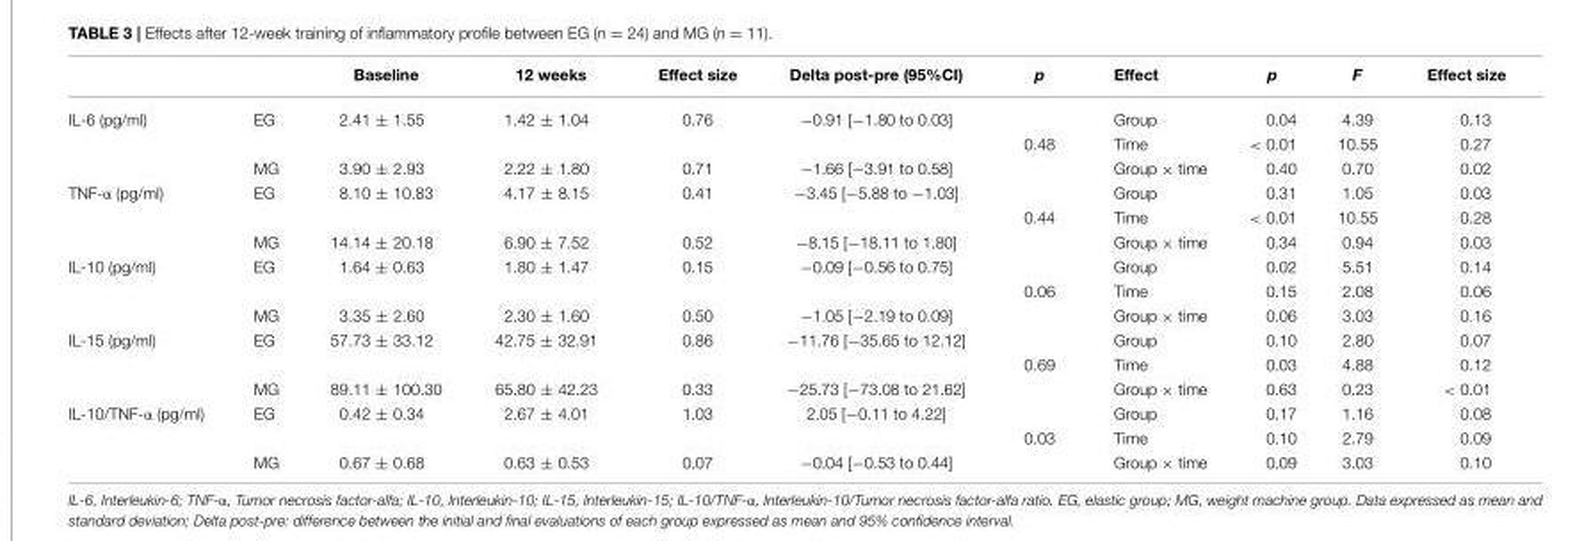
<table><thead><tr><td></td><td></td><td>Baseline</td><td>12 weeks</td><td>Effect size</td><td>Delta post-pre (95%CI)</td><td>p</td><td>Effect</td><td>p</td><td>F</td><td>Effect size</td></tr></thead><tbody><tr><td rowspan="3">IL-6 (pg/ml)</td><td>EG</td><td>2.41 ± 1.55</td><td>1.42 ± 1.04</td><td>0.76</td><td>−0.91 [−1.80 to 0.03]</td><td></td><td>Group</td><td>0.04</td><td>4.39</td><td>0.13</td></tr><tr><td></td><td></td><td></td><td></td><td></td><td>0.48</td><td>Time</td><td>&lt; 0.01</td><td>10.55</td><td>0.27</td></tr><tr><td>MG</td><td>3.90 ± 2.93</td><td>2.22 ± 1.80</td><td>0.71</td><td>−1.66 [−3.91 to 0.58]</td><td></td><td>Group × time</td><td>0.40</td><td>0.70</td><td>0.02</td></tr><tr><td rowspan="3">TNF-α (pg/ml)</td><td>EG</td><td>8.10 ± 10.83</td><td>4.17 ± 8.15</td><td>0.41</td><td>−3.45 [−5.88 to −1.03]</td><td></td><td>Group</td><td>0.31</td><td>1.05</td><td>0.03</td></tr><tr><td></td><td></td><td></td><td></td><td></td><td>0.44</td><td>Time</td><td>&lt; 0.01</td><td>10.55</td><td>0.28</td></tr><tr><td>MG</td><td>14.14 ± 20.18</td><td>6.90 ± 7.52</td><td>0.52</td><td>−8.15 [−18.11 to 1.80]</td><td></td><td>Group × time</td><td>0.34</td><td>0.94</td><td>0.03</td></tr><tr><td rowspan="3">IL-10 (pg/ml)</td><td>EG</td><td>1.64 ± 0.63</td><td>1.80 ± 1.47</td><td>0.15</td><td>−0.09 [−0.56 to 0.75]</td><td></td><td>Group</td><td>0.02</td><td>5.51</td><td>0.14</td></tr><tr><td></td><td></td><td></td><td></td><td></td><td>0.06</td><td>Time</td><td>0.15</td><td>2.08</td><td>0.06</td></tr><tr><td>MG</td><td>3.35 ± 2.60</td><td>2.30 ± 1.60</td><td>0.50</td><td>−1.05 [−2.19 to 0.09]</td><td></td><td>Group × time</td><td>0.06</td><td>3.03</td><td>0.16</td></tr><tr><td rowspan="3">IL-15 (pg/ml)</td><td>EG</td><td>57.73 ± 33.12</td><td>42.75 ± 32.91</td><td>0.86</td><td>−11.76 [−35.65 to 12.12]</td><td></td><td>Group</td><td>0.10</td><td>2.80</td><td>0.07</td></tr><tr><td></td><td></td><td></td><td></td><td></td><td>0.69</td><td>Time</td><td>0.03</td><td>4.88</td><td>0.12</td></tr><tr><td>MG</td><td>89.11 ± 100.30</td><td>65.80 ± 42.23</td><td>0.33</td><td>−25.73 [−73.08 to 21.62]</td><td></td><td>Group × time</td><td>0.63</td><td>0.23</td><td>&lt; 0.01</td></tr><tr><td rowspan="3">IL-10/TNF-α (pg/ml)</td><td>EG</td><td>0.42 ± 0.34</td><td>2.67 ± 4.01</td><td>1.03</td><td>2.05 [−0.11 to 4.22]</td><td></td><td>Group</td><td>0.17</td><td>1.16</td><td>0.08</td></tr><tr><td></td><td></td><td></td><td></td><td></td><td>0.03</td><td>Time</td><td>0.10</td><td>2.79</td><td>0.09</td></tr><tr><td>MG</td><td>0.67 ± 0.68</td><td>0.63 ± 0.53</td><td>0.07</td><td>−0.04 [−0.53 to 0.44]</td><td></td><td>Group × time</td><td>0.09</td><td>3.03</td><td>0.10</td></tr></tbody></table>